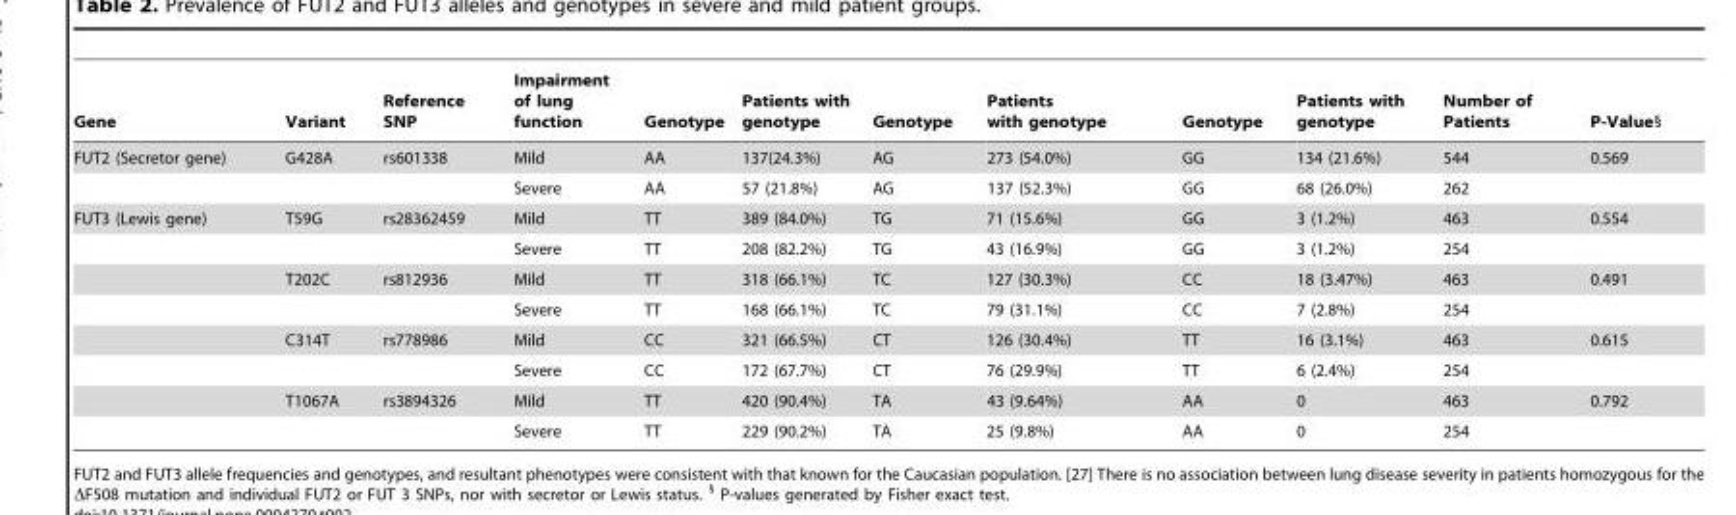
<table><thead><tr><td>Gene</td><td>Variant</td><td>Reference SNP</td><td>Impairment of lung function</td><td>Genotype</td><td>Patients with genotype</td><td>Genotype</td><td>Patients with genotype</td><td>Genotype</td><td>Patients with genotype</td><td>Number of Patients</td><td>P-Value§</td></tr></thead><tbody><tr><td rowspan="2">FUT2 (Secretor gene)</td><td>G428A</td><td>rs601338</td><td>Mild</td><td>AA</td><td>137(24.3%)</td><td>AG</td><td>273 (54.0%)</td><td>GG</td><td>134 (21.6%)</td><td>544</td><td>0.569</td></tr><tr><td></td><td></td><td>Severe</td><td>AA</td><td>57 (21.8%)</td><td>AG</td><td>137 (52.3%)</td><td>GG</td><td>68 (26.0%)</td><td>262</td><td></td></tr><tr><td rowspan="8">FUT3 (Lewis gene)</td><td>T59G</td><td>rs28362459</td><td>Mild</td><td>TT</td><td>389 (84.0%)</td><td>TG</td><td>71 (15.6%)</td><td>GG</td><td>3 (1.2%)</td><td>463</td><td>0.554</td></tr><tr><td></td><td></td><td>Severe</td><td>TT</td><td>208 (82.2%)</td><td>TG</td><td>43 (16.9%)</td><td>GG</td><td>3 (1.2%)</td><td>254</td><td></td></tr><tr><td>T202C</td><td>rs812936</td><td>Mild</td><td>TT</td><td>318 (66.1%)</td><td>TC</td><td>127 (30.3%)</td><td>CC</td><td>18 (3.47%)</td><td>463</td><td>0.491</td></tr><tr><td></td><td></td><td>Severe</td><td>TT</td><td>168 (66.1%)</td><td>TC</td><td>79 (31.1%)</td><td>CC</td><td>7 (2.8%)</td><td>254</td><td></td></tr><tr><td>C314T</td><td>rs778986</td><td>Mild</td><td>CC</td><td>321 (66.5%)</td><td>CT</td><td>126 (30.4%)</td><td>TT</td><td>16 (3.1%)</td><td>463</td><td>0.615</td></tr><tr><td></td><td></td><td>Severe</td><td>CC</td><td>172 (67.7%)</td><td>CT</td><td>76 (29.9%)</td><td>TT</td><td>6 (2.4%)</td><td>254</td><td></td></tr><tr><td>T1067A</td><td>rs3894326</td><td>Mild</td><td>TT</td><td>420 (90.4%)</td><td>TA</td><td>43 (9.64%)</td><td>AA</td><td>0</td><td>463</td><td>0.792</td></tr><tr><td></td><td></td><td>Severe</td><td>TT</td><td>229 (90.2%)</td><td>TA</td><td>25 (9.8%)</td><td>AA</td><td>0</td><td>254</td><td></td></tr></tbody></table>